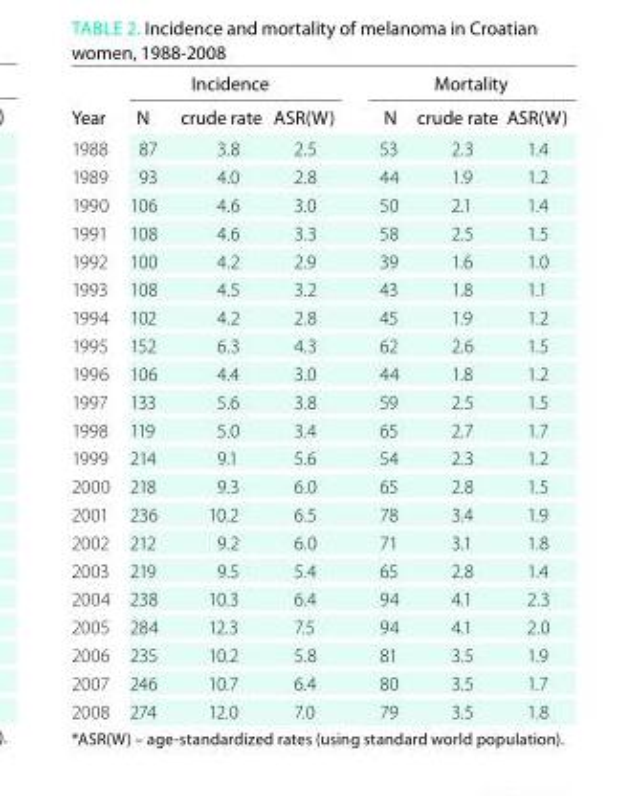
<table><thead><tr><td rowspan="2">Year</td><td colspan="3">incidence</td><td colspan="3">Mortality</td></tr><tr><td>n</td><td>crude rate</td><td>Asr(W)</td><td>n</td><td>crude rate</td><td>Asr(W)</td></tr></thead><tbody><tr><td>1988</td><td>87</td><td>3.8</td><td>2.5</td><td>53</td><td>2.3</td><td>1.4</td></tr><tr><td>1989</td><td>93</td><td>4.0</td><td>2.8</td><td>44</td><td>1.9</td><td>1.2</td></tr><tr><td>1990</td><td>106</td><td>4.6</td><td>3.0</td><td>50</td><td>2.1</td><td>1.4</td></tr><tr><td>1991</td><td>108</td><td>4.6</td><td>3.3</td><td>58</td><td>2.5</td><td>1.5</td></tr><tr><td>1992</td><td>100</td><td>4.2</td><td>2.9</td><td>39</td><td>1.6</td><td>1.0</td></tr><tr><td>1993</td><td>108</td><td>4.5</td><td>3.2</td><td>43</td><td>1.8</td><td>1.1</td></tr><tr><td>1994</td><td>102</td><td>4.2</td><td>2.8</td><td>45</td><td>1.9</td><td>1.2</td></tr><tr><td>1995</td><td>152</td><td>6.3</td><td>4.3</td><td>62</td><td>2.6</td><td>1.5</td></tr><tr><td>1996</td><td>106</td><td>4.4</td><td>3.0</td><td>44</td><td>1.8</td><td>1.2</td></tr><tr><td>1997</td><td>133</td><td>5.6</td><td>3.8</td><td>59</td><td>2.5</td><td>1.5</td></tr><tr><td>1998</td><td>119</td><td>5.0</td><td>3.4</td><td>65</td><td>2.7</td><td>1.7</td></tr><tr><td>1999</td><td>214</td><td>9.1</td><td>5.6</td><td>54</td><td>2.3</td><td>1.2</td></tr><tr><td>2000</td><td>218</td><td>9.3</td><td>6.0</td><td>65</td><td>2.8</td><td>1.5</td></tr><tr><td>2001</td><td>236</td><td>10.2</td><td>6.5</td><td>78</td><td>3.4</td><td>1.9</td></tr><tr><td>2002</td><td>212</td><td>9.2</td><td>6.0</td><td>71</td><td>3.1</td><td>1.8</td></tr><tr><td>2003</td><td>219</td><td>9.5</td><td>5.4</td><td>65</td><td>2.8</td><td>1.4</td></tr><tr><td>2004</td><td>238</td><td>10.3</td><td>6.4</td><td>94</td><td>4.1</td><td>2.3</td></tr><tr><td>2005</td><td>284</td><td>12.3</td><td>7.5</td><td>94</td><td>4.1</td><td>2.0</td></tr><tr><td>2006</td><td>235</td><td>10.2</td><td>5.8</td><td>81</td><td>3.5</td><td>1.9</td></tr><tr><td>2007</td><td>246</td><td>10.7</td><td>6.4</td><td>80</td><td>3.5</td><td>1.7</td></tr><tr><td>2008</td><td>274</td><td>12.0</td><td>7.0</td><td>79</td><td>3.5</td><td>1.8</td></tr></tbody></table>